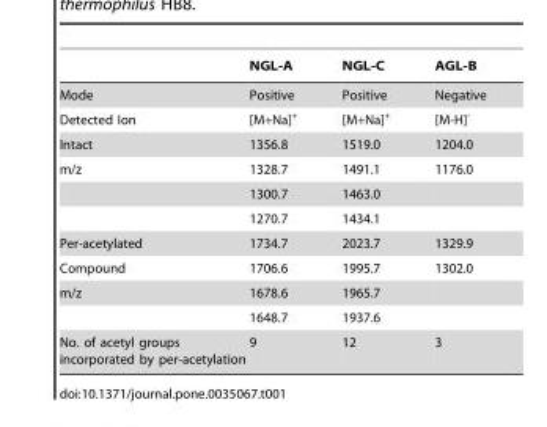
<table><thead><tr><td></td><td>NGL-A</td><td>NGL-C</td><td>AGL-B</td></tr></thead><tbody><tr><td>Mode</td><td>Positive</td><td>Positive</td><td>Negative</td></tr><tr><td>Detected Ion</td><td>[M+Na]<sup>+</sup></td><td>[M+Na]<sup>+</sup></td><td>[M-H]<sup>-</sup></td></tr><tr><td>Intact</td><td>1356.8</td><td>1519.0</td><td>1204.0</td></tr><tr><td rowspan="3">m/z</td><td>1328.7</td><td>1491.1</td><td>1176.0</td></tr><tr><td>1300.7</td><td>1463.0</td><td></td></tr><tr><td>1270.7</td><td>1434.1</td><td></td></tr><tr><td>Per-acetylated</td><td>1734.7</td><td>2023.7</td><td>1329.9</td></tr><tr><td>Compound</td><td>1706.6</td><td>1995.7</td><td>1302.0</td></tr><tr><td rowspan="2">m/z</td><td>1678.6</td><td>1965.7</td><td></td></tr><tr><td>1648.7</td><td>1937.6</td><td></td></tr><tr><td>No. of acetyl groups incorporated by per-acetylation</td><td>9</td><td>12</td><td>3</td></tr></tbody></table>